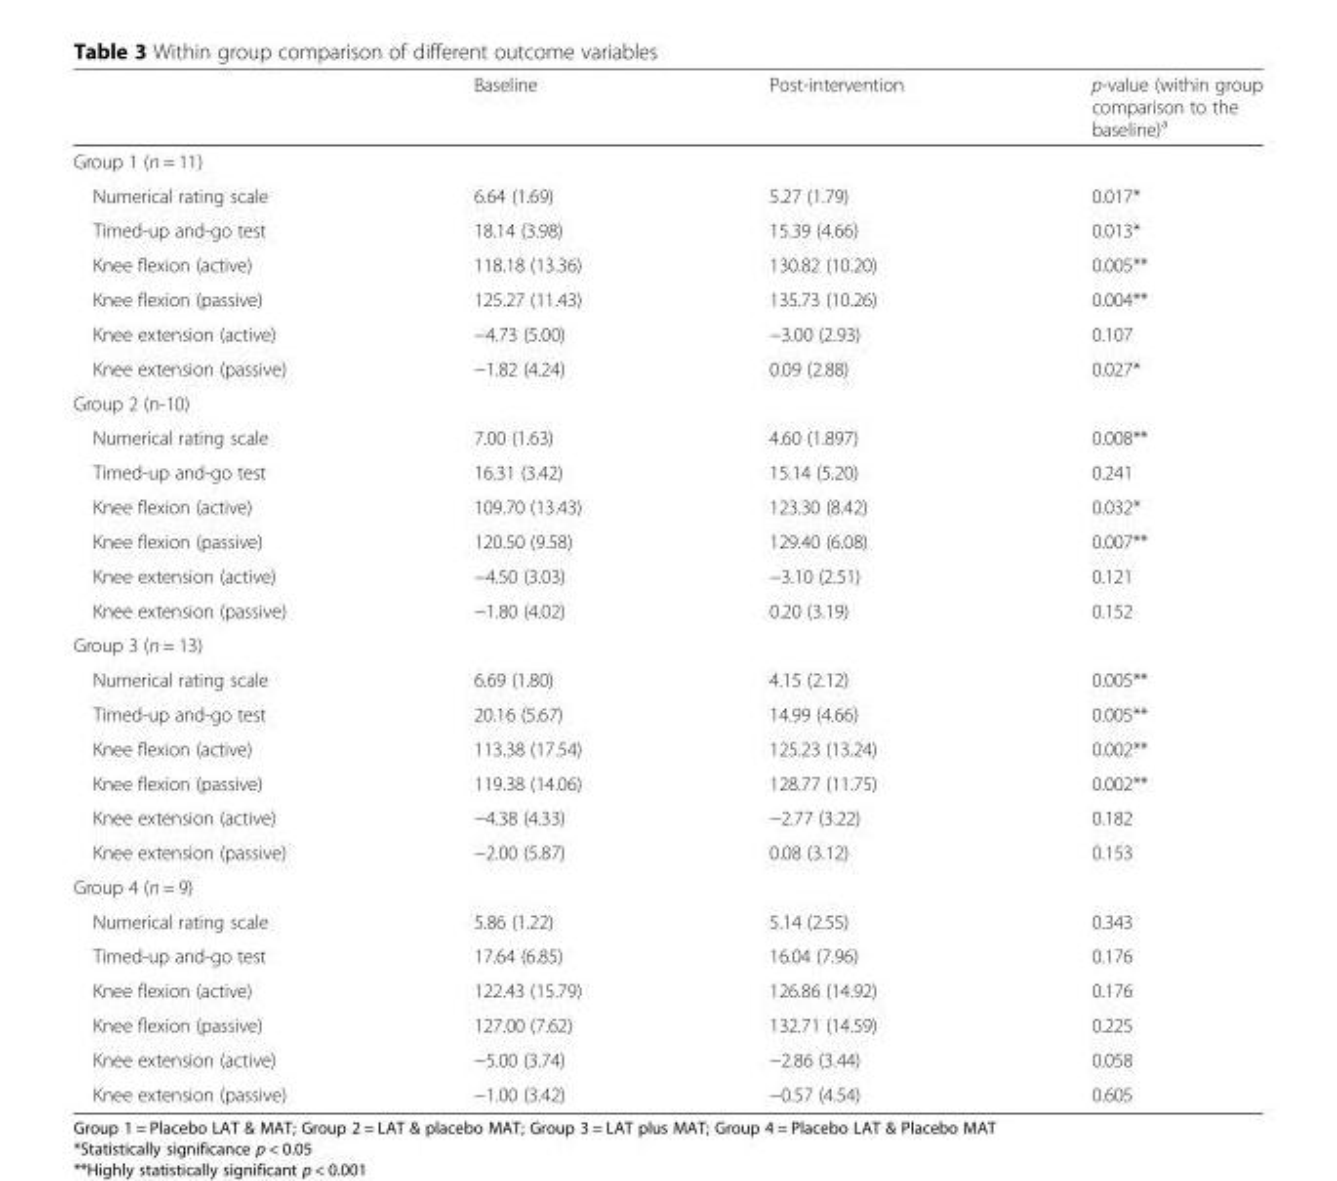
<table><thead><tr><td></td><td>Baseline</td><td>Post-intervention</td><td>p-value (within group comparison to the baseline)<sup>a</sup></td></tr></thead><tbody><tr><td colspan="4">Group 1 (n = 11)</td></tr><tr><td>Numerical rating scale</td><td>6.64 (1.69)</td><td>5.27 (1.79)</td><td>0.017*</td></tr><tr><td>Timed-up and-go test</td><td>18.14 (3.98)</td><td>15.39 (4.66)</td><td>0.013*</td></tr><tr><td>Knee flexion (active)</td><td>118.18 (13.36)</td><td>130.82 (10.20)</td><td>0.005**</td></tr><tr><td>Knee flexion (passive)</td><td>125.27 (11.43)</td><td>135.73 (10.26)</td><td>0.004**</td></tr><tr><td>Knee extension (active)</td><td>−4.73 (5.00)</td><td>−3.00 (2.93)</td><td>0.107</td></tr><tr><td>Knee extension (passive)</td><td>−1.82 (4.24)</td><td>0.09 (2.88)</td><td>0.027*</td></tr><tr><td colspan="4">Group 2 (n-10)</td></tr><tr><td>Numerical rating scale</td><td>7.00 (1.63)</td><td>4.60 (1.897)</td><td>0.008**</td></tr><tr><td>Timed-up and-go test</td><td>16.31 (3.42)</td><td>15.14 (5.20)</td><td>0.241</td></tr><tr><td>Knee flexion (active)</td><td>109.70 (13.43)</td><td>123.30 (8.42)</td><td>0.032*</td></tr><tr><td>Knee flexion (passive)</td><td>120.50 (9.58)</td><td>129.40 (6.08)</td><td>0.007**</td></tr><tr><td>Knee extension (active)</td><td>−4.50 (3.03)</td><td>−3.10 (2.51)</td><td>0.121</td></tr><tr><td>Knee extension (passive)</td><td>−1.80 (4.02)</td><td>0.20 (3.19)</td><td>0.152</td></tr><tr><td colspan="4">Group 3 (n = 13)</td></tr><tr><td>Numerical rating scale</td><td>6.69 (1.80)</td><td>4.15 (2.12)</td><td>0.005**</td></tr><tr><td>Timed-up and-go test</td><td>20.16 (5.67)</td><td>14.99 (4.66)</td><td>0.005**</td></tr><tr><td>Knee flexion (active)</td><td>113.38 (17.54)</td><td>125.23 (13.24)</td><td>0.002**</td></tr><tr><td>Knee flexion (passive)</td><td>119.38 (14.06)</td><td>128.77 (11.75)</td><td>0.002**</td></tr><tr><td>Knee extension (active)</td><td>−4.38 (4.33)</td><td>−2.77 (3.22)</td><td>0.182</td></tr><tr><td>Knee extension (passive)</td><td>−2.00 (5.87)</td><td>0.08 (3.12)</td><td>0.153</td></tr><tr><td colspan="4">Group 4 (n = 9)</td></tr><tr><td>Numerical rating scale</td><td>5.86 (1.22)</td><td>5.14 (2.55)</td><td>0.343</td></tr><tr><td>Timed-up and-go test</td><td>17.64 (6.85)</td><td>16.04 (7.96)</td><td>0.176</td></tr><tr><td>Knee flexion (active)</td><td>122.43 (15.79)</td><td>126.86 (14.92)</td><td>0.176</td></tr><tr><td>Knee flexion (passive)</td><td>127.00 (7.62)</td><td>132.71 (14.59)</td><td>0.225</td></tr><tr><td>Knee extension (active)</td><td>−5.00 (3.74)</td><td>−2.86 (3.44)</td><td>0.058</td></tr><tr><td>Knee extension (passive)</td><td>−1.00 (3.42)</td><td>−0.57 (4.54)</td><td>0.605</td></tr></tbody></table>